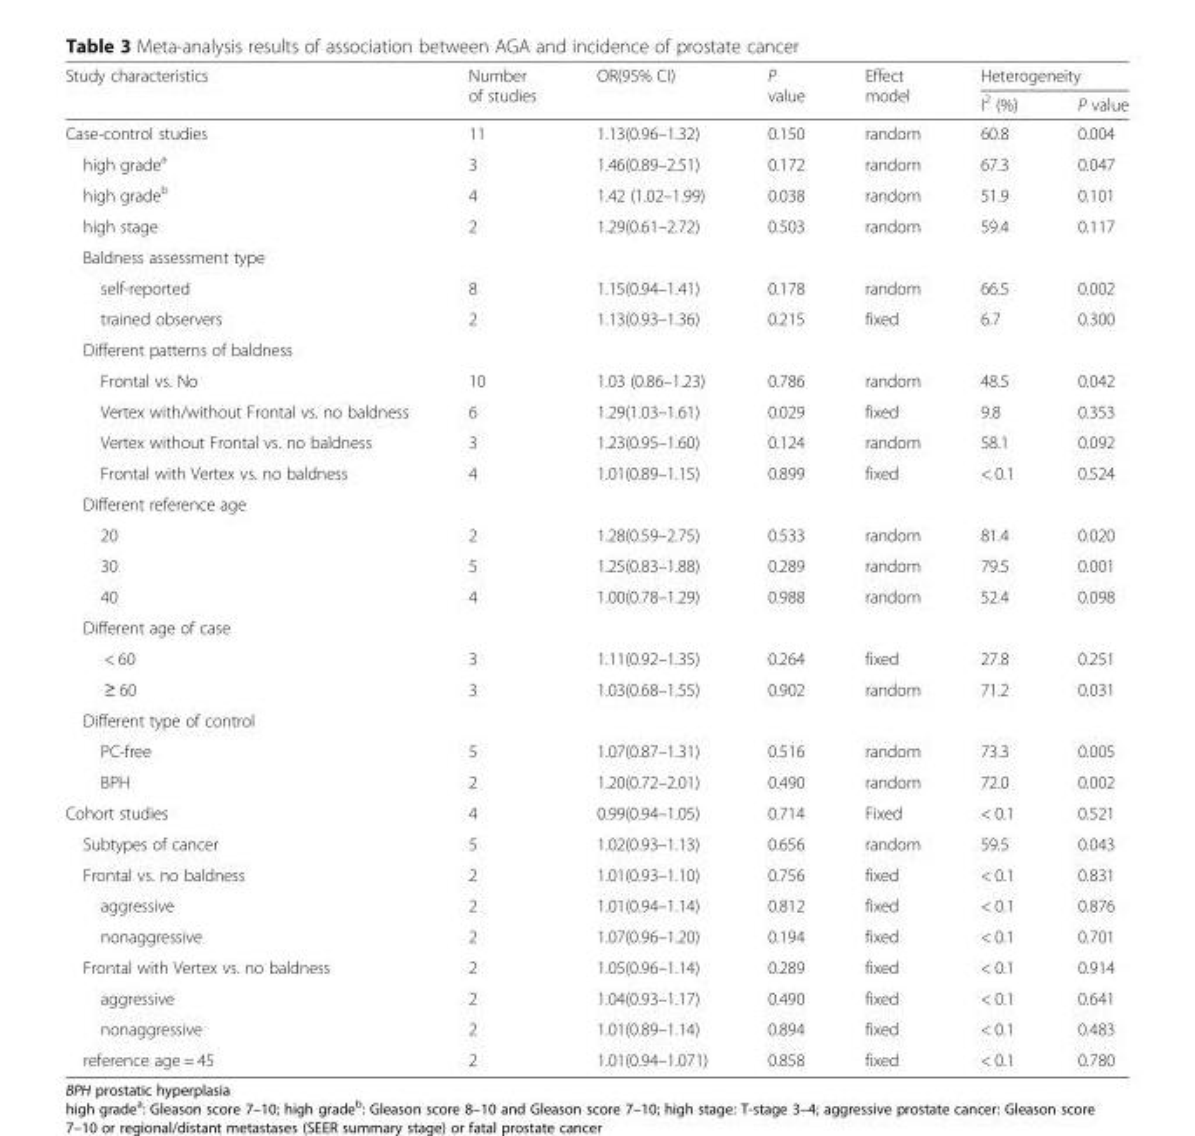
<table><thead><tr><td rowspan="2">Study characteristics</td><td rowspan="2">Number of studies</td><td rowspan="2">OR(95% CI)</td><td rowspan="2">P value</td><td rowspan="2">Effect model</td><td colspan="2">Heterogeneity</td></tr><tr><td>I<sup>2</sup> (%)</td><td>P value</td></tr></thead><tbody><tr><td>Case-control studies</td><td>11</td><td>1.13(0.96–1.32)</td><td>0.150</td><td>random</td><td>60.8</td><td>0.004</td></tr><tr><td>high grade<sup>a</sup></td><td>3</td><td>1.46(0.89–2.51)</td><td>0.172</td><td>random</td><td>67.3</td><td>0.047</td></tr><tr><td>high grade<sup>b</sup></td><td>4</td><td>1.42 (1.02–1.99)</td><td>0.038</td><td>random</td><td>51.9</td><td>0.101</td></tr><tr><td>high stage</td><td>2</td><td>1.29(0.61–2.72)</td><td>0.503</td><td>random</td><td>59.4</td><td>0.117</td></tr><tr><td colspan="7">Baldness assessment type</td></tr><tr><td>self-reported</td><td>8</td><td>1.15(0.94–1.41)</td><td>0.178</td><td>random</td><td>66.5</td><td>0.002</td></tr><tr><td>trained observers</td><td>2</td><td>1.13(0.93–1.36)</td><td>0.215</td><td>fixed</td><td>6.7</td><td>0.300</td></tr><tr><td colspan="7">Different patterns of baldness</td></tr><tr><td>Frontal vs. No</td><td>10</td><td>1.03 (0.86–1.23)</td><td>0.786</td><td>random</td><td>48.5</td><td>0.042</td></tr><tr><td>Vertex with/without Frontal vs. no baldness</td><td>6</td><td>1.29(1.03–1.61)</td><td>0.029</td><td>fixed</td><td>9.8</td><td>0.353</td></tr><tr><td>Vertex without Frontal vs. no baldness</td><td>3</td><td>1.23(0.95–1.60)</td><td>0.124</td><td>random</td><td>58.1</td><td>0.092</td></tr><tr><td>Frontal with Vertex vs. no baldness</td><td>4</td><td>1.01(0.89–1.15)</td><td>0.899</td><td>fixed</td><td>&lt; 0.1</td><td>0.524</td></tr><tr><td colspan="7">Different reference age</td></tr><tr><td>20</td><td>2</td><td>1.28(0.59–2.75)</td><td>0.533</td><td>random</td><td>81.4</td><td>0.020</td></tr><tr><td>30</td><td>5</td><td>1.25(0.83–1.88)</td><td>0.289</td><td>random</td><td>79.5</td><td>0.001</td></tr><tr><td>40</td><td>4</td><td>1.00(0.78–1.29)</td><td>0.988</td><td>random</td><td>52.4</td><td>0.098</td></tr><tr><td colspan="7">Different age of case</td></tr><tr><td>&lt; 60</td><td>3</td><td>1.11(0.92–1.35)</td><td>0.264</td><td>fixed</td><td>27.8</td><td>0.251</td></tr><tr><td>≥ 60</td><td>3</td><td>1.03(0.68–1.55)</td><td>0.902</td><td>random</td><td>71.2</td><td>0.031</td></tr><tr><td colspan="7">Different type of control</td></tr><tr><td>PC-free</td><td>5</td><td>1.07(0.87–1.31)</td><td>0.516</td><td>random</td><td>73.3</td><td>0.005</td></tr><tr><td>BPH</td><td>2</td><td>1.20(0.72–2.01)</td><td>0.490</td><td>random</td><td>72.0</td><td>0.002</td></tr><tr><td>Cohort studies</td><td>4</td><td>0.99(0.94–1.05)</td><td>0.714</td><td>Fixed</td><td>&lt; 0.1</td><td>0.521</td></tr><tr><td>Subtypes of cancer</td><td>5</td><td>1.02(0.93–1.13)</td><td>0.656</td><td>random</td><td>59.5</td><td>0.043</td></tr><tr><td>Frontal vs. no baldness</td><td>2</td><td>1.01(0.93–1.10)</td><td>0.756</td><td>fixed</td><td>&lt; 0.1</td><td>0.831</td></tr><tr><td>aggressive</td><td>2</td><td>1.01(0.94–1.14)</td><td>0.812</td><td>fixed</td><td>&lt; 0.1</td><td>0.876</td></tr><tr><td>nonaggressive</td><td>2</td><td>1.07(0.96–1.20)</td><td>0.194</td><td>fixed</td><td>&lt; 0.1</td><td>0.701</td></tr><tr><td>Frontal with Vertex vs. no baldness</td><td>2</td><td>1.05(0.96–1.14)</td><td>0.289</td><td>fixed</td><td>&lt; 0.1</td><td>0.914</td></tr><tr><td>aggressive</td><td>2</td><td>1.04(0.93–1.17)</td><td>0.490</td><td>fixed</td><td>&lt; 0.1</td><td>0.641</td></tr><tr><td>nonaggressive</td><td>2</td><td>1.01(0.89–1.14)</td><td>0.894</td><td>fixed</td><td>&lt; 0.1</td><td>0.483</td></tr><tr><td>reference age = 45</td><td>2</td><td>1.01(0.94–1.071)</td><td>0.858</td><td>fixed</td><td>&lt; 0.1</td><td>0.780</td></tr></tbody></table>